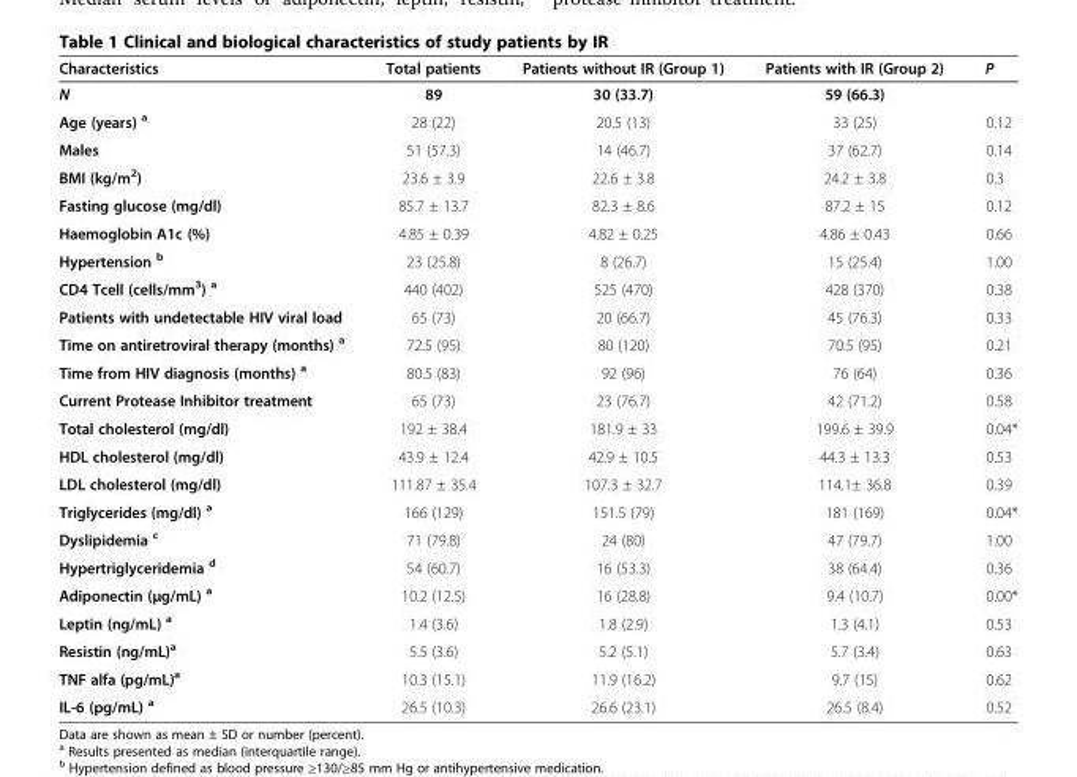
<table><thead><tr><td>Characteristics</td><td>Total patients</td><td>Patients without IR (Group 1)</td><td>Patients with IR (Group 2)</td><td>P</td></tr></thead><tbody><tr><td>N</td><td>89</td><td>30 (33.7)</td><td>59 (66.3)</td><td></td></tr><tr><td>Age (years) <sup>a</sup></td><td>28 (22)</td><td>20.5 (13)</td><td>33 (25)</td><td>0.12</td></tr><tr><td>Males</td><td>51 (57.3)</td><td>14 (46.7)</td><td>37 (62.7)</td><td>0.14</td></tr><tr><td>BMI (kg/m<sup>2</sup>)</td><td>23.6 ± 3.9</td><td>22.6 ± 3.8</td><td>24.2 ± 3.8</td><td>0.3</td></tr><tr><td>Fasting glucose (mg/dl)</td><td>85.7 ± 13.7</td><td>82.3 ± 8.6</td><td>87.2 ± 15</td><td>0.12</td></tr><tr><td>Haemoglobin A1c (%)</td><td>4.85 ± 0.39</td><td>4.82 ± 0.25</td><td>4.86 ± 0.43</td><td>0.66</td></tr><tr><td>Hypertension <sup>b</sup></td><td>23 (25.8)</td><td>8 (26.7)</td><td>15 (25.4)</td><td>1.00</td></tr><tr><td>CD4 Tcell (cells/mm<sup>3</sup>) <sup>a</sup></td><td>440 (402)</td><td>525 (470)</td><td>428 (370)</td><td>0.38</td></tr><tr><td>Patients with undetectable HIV viral load</td><td>65 (73)</td><td>20 (66.7)</td><td>45 (76.3)</td><td>0.33</td></tr><tr><td>Time on antiretroviral therapy (months) <sup>a</sup></td><td>72.5 (95)</td><td>80 (120)</td><td>70.5 (95)</td><td>0.21</td></tr><tr><td>Time from HIV diagnosis (months) <sup>a</sup></td><td>80.5 (83)</td><td>92 (96)</td><td>76 (64)</td><td>0.36</td></tr><tr><td>Current Protease Inhibitor treatment</td><td>65 (73)</td><td>23 (76.7)</td><td>42 (71.2)</td><td>0.58</td></tr><tr><td>Total cholesterol (mg/dl)</td><td>192 ± 38.4</td><td>181.9 ± 33</td><td>199.6 ± 39.9</td><td>0.04*</td></tr><tr><td>HDL cholesterol (mg/dl)</td><td>43.9 ± 12.4</td><td>42.9 ± 10.5</td><td>44.3 ± 13.3</td><td>0.53</td></tr><tr><td>LDL cholesterol (mg/dl)</td><td>111.87 ± 35.4</td><td>107.3 ± 32.7</td><td>114.1± 36.8</td><td>0.39</td></tr><tr><td>Triglycerides (mg/dl) <sup>a</sup></td><td>166 (129)</td><td>151.5 (79)</td><td>181 (169)</td><td>0.04*</td></tr><tr><td>Dyslipidemia <sup>c</sup></td><td>71 (79.8)</td><td>24 (80)</td><td>47 (79.7)</td><td>1.00</td></tr><tr><td>Hypertriglyceridemia <sup>d</sup></td><td>54 (60.7)</td><td>16 (53.3)</td><td>38 (64.4)</td><td>0.36</td></tr><tr><td>Adiponectin (μg/mL) <sup>a</sup></td><td>10.2 (12.5)</td><td>16 (28.8)</td><td>9.4 (10.7)</td><td>0.00*</td></tr><tr><td>Leptin (ng/mL) <sup>a</sup></td><td>1.4 (3.6)</td><td>1.8 (2.9)</td><td>1.3 (4.1)</td><td>0.53</td></tr><tr><td>Resistin (ng/mL)<sup>a</sup></td><td>5.5 (3.6)</td><td>5.2 (5.1)</td><td>5.7 (3.4)</td><td>0.63</td></tr><tr><td>TNF alfa (pg/mL)<sup>a</sup></td><td>10.3 (15.1)</td><td>11.9 (16.2)</td><td>9.7 (15)</td><td>0.62</td></tr><tr><td>IL-6 (pg/mL) <sup>a</sup></td><td>26.5 (10.3)</td><td>26.6 (23.1)</td><td>26.5 (8.4)</td><td>0.52</td></tr></tbody></table>